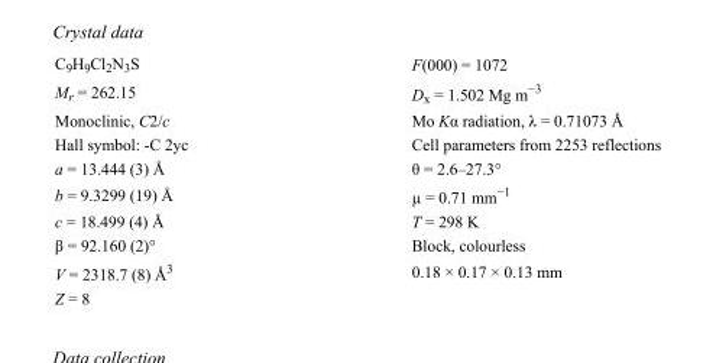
<table><tbody><tr><td>C<sub>9</sub>H<sub>9</sub>Cl<sub>2</sub>N<sub>3</sub>S</td><td>F(000) = 1072</td></tr><tr><td>M<sub>r</sub> = 262.15</td><td>D<sub>x</sub> = 1.502 Mg m<sup>−3</sup></td></tr><tr><td>Monoclinic, C2/c</td><td>Mo Kα radiation, λ = 0.71073 Å</td></tr><tr><td>Hall symbol: -C 2yc</td><td>Cell parameters from 2253 reflections</td></tr><tr><td>a = 13.444 (3) Å</td><td>θ = 2.6–27.3°</td></tr><tr><td>b = 9.3299 (19) Å</td><td>µ = 0.71 mm<sup>−1</sup></td></tr><tr><td>c = 18.499 (4) Å</td><td>T = 298 K</td></tr><tr><td>β = 92.160 (2)°</td><td>Block, colourless</td></tr><tr><td>V = 2318.7 (8) Å<sup>3</sup></td><td>0.18 × 0.17 × 0.13 mm</td></tr><tr><td>Z = 8</td><td></td></tr></tbody></table>